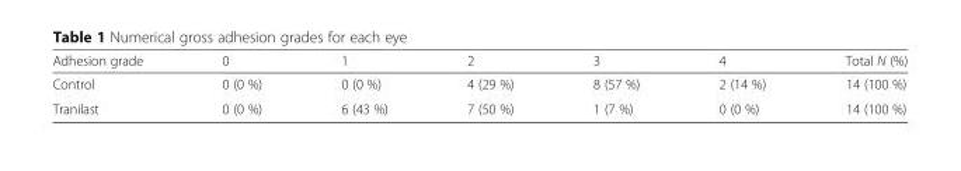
<table><thead><tr><td>Adhesion grade</td><td>0</td><td>1</td><td>2</td><td>3</td><td>4</td><td>Total N (%)</td></tr></thead><tbody><tr><td>Control</td><td>0 (0 %)</td><td>0 (0 %)</td><td>4 (29 %)</td><td>8 (57 %)</td><td>2 (14 %)</td><td>14 (100 %)</td></tr><tr><td>Tranilast</td><td>0 (0 %)</td><td>6 (43 %)</td><td>7 (50 %)</td><td>1 (7 %)</td><td>0 (0 %)</td><td>14 (100 %)</td></tr></tbody></table>